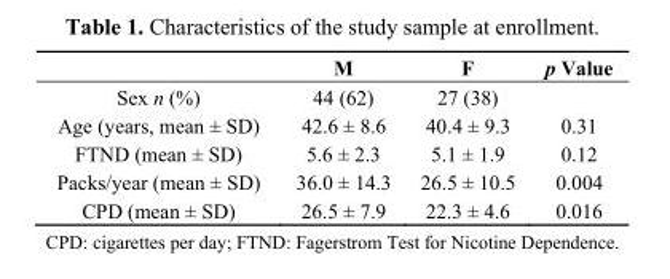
<table><thead><tr><td></td><td>M</td><td>F</td><td>p Value</td></tr></thead><tbody><tr><td>Sex n (%)</td><td>44 (62)</td><td>27 (38)</td><td></td></tr><tr><td>Age (years, mean ± SD)</td><td>42.6 ± 8.6</td><td>40.4 ± 9.3</td><td>0.31</td></tr><tr><td>FTND (mean ± SD)</td><td>5.6 ± 2.3</td><td>5.1 ± 1.9</td><td>0.12</td></tr><tr><td>Packs/year (mean ± SD)</td><td>36.0 ± 14.3</td><td>26.5 ± 10.5</td><td>0.004</td></tr><tr><td>CPD (mean ± SD)</td><td>26.5 ± 7.9</td><td>22.3 ± 4.6</td><td>0.016</td></tr></tbody></table>